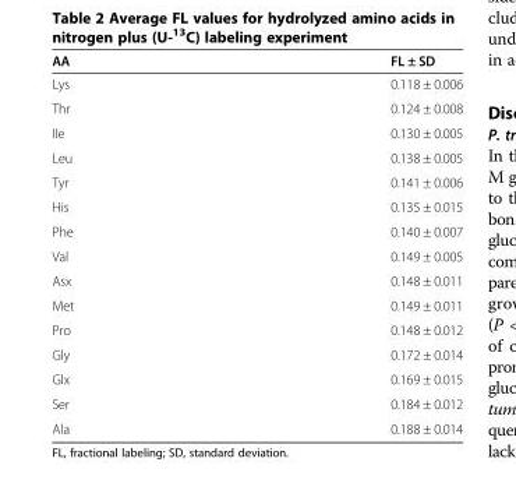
<table><thead><tr><td>AA</td><td>FL ± SD</td></tr></thead><tbody><tr><td>Lys</td><td>0.118 ± 0.006</td></tr><tr><td>Thr</td><td>0.124 ± 0.008</td></tr><tr><td>Ile</td><td>0.130 ± 0.005</td></tr><tr><td>Leu</td><td>0.138 ± 0.005</td></tr><tr><td>Tyr</td><td>0.141 ± 0.006</td></tr><tr><td>His</td><td>0.135 ± 0.015</td></tr><tr><td>Phe</td><td>0.140 ± 0.007</td></tr><tr><td>Val</td><td>0.149 ± 0.005</td></tr><tr><td>Asx</td><td>0.148 ± 0.011</td></tr><tr><td>Met</td><td>0.149 ± 0.011</td></tr><tr><td>Pro</td><td>0.148 ± 0.012</td></tr><tr><td>Gly</td><td>0.172 ± 0.014</td></tr><tr><td>Glx</td><td>0.169 ± 0.015</td></tr><tr><td>Ser</td><td>0.184 ± 0.012</td></tr><tr><td>Ala</td><td>0.188 ± 0.014</td></tr></tbody></table>